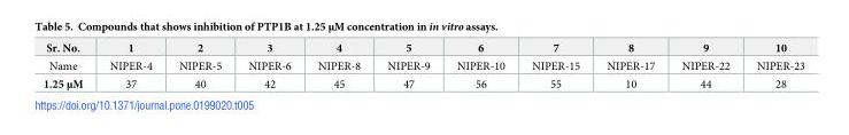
<table><thead><tr><td>Sr. No.</td><td>1</td><td>2</td><td>3</td><td>4</td><td>5</td><td>6</td><td>7</td><td>8</td><td>9</td><td>10</td></tr></thead><tbody><tr><td>Name</td><td>NIPER-4</td><td>NIPER-5</td><td>NIPER-6</td><td>NIPER-8</td><td>NIPER-9</td><td>NIPER-10</td><td>NIPER-15</td><td>NIPER-17</td><td>NIPER-22</td><td>NIPER-23</td></tr><tr><td>1.25 μM</td><td>37</td><td>40</td><td>42</td><td>45</td><td>47</td><td>56</td><td>55</td><td>10</td><td>44</td><td>28</td></tr></tbody></table>